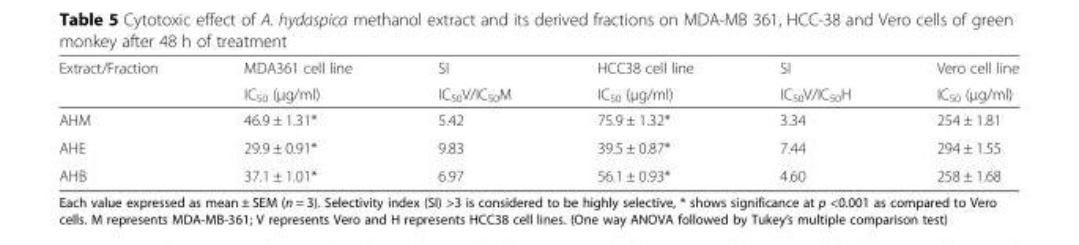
<table><thead><tr><td rowspan="2">Extract/Fraction</td><td rowspan="2">MDA361 cell line IC<sub>50</sub> (μg/ml)</td><td rowspan="2">SI IC<sub>50</sub>V/IC<sub>50</sub>M</td><td rowspan="2">HCC38 cell line IC<sub>50</sub> (μg/ml)</td><td rowspan="2">SI IC<sub>50</sub>V/IC<sub>50</sub>H</td><td rowspan="2">Vero cell line IC<sub>50</sub> (μg/ml)</td></tr><tr></tr></thead><tbody><tr><td>AHM</td><td>46.9 ± 1.31*</td><td>5.42</td><td>75.9 ± 1.32*</td><td>3.34</td><td>254 ± 1.81</td></tr><tr><td>AHE</td><td>29.9 ± 0.91*</td><td>9.83</td><td>39.5 ± 0.87*</td><td>7.44</td><td>294 ± 1.55</td></tr><tr><td>AHB</td><td>37.1 ± 1.01*</td><td>6.97</td><td>56.1 ± 0.93*</td><td>4.60</td><td>258 ± 1.68</td></tr></tbody></table>